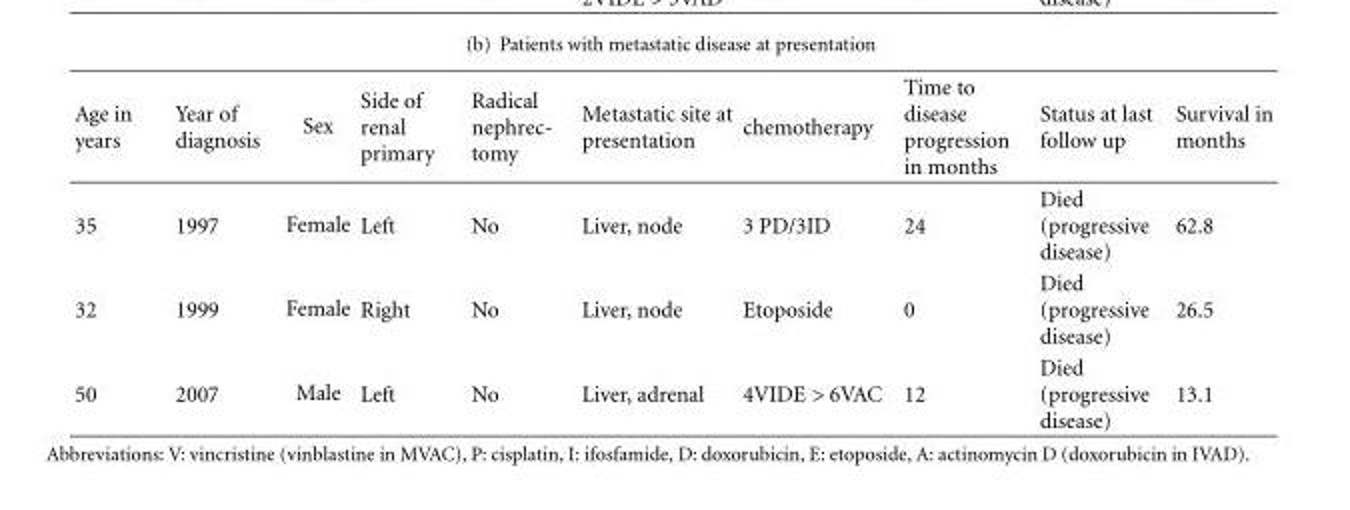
<table><thead><tr><td>Age in years</td><td>Year of diagnosis</td><td>Sex</td><td>Side of renal primary</td><td>Radical nephrec- tomy</td><td>Metastatic site at presentation</td><td>chemotherapy</td><td>Time to disease progression in months</td><td>Status at last follow up</td><td>Survival in months</td></tr></thead><tbody><tr><td>35</td><td>1997</td><td>Female</td><td>Left</td><td>No</td><td>Liver, node</td><td>3 PD/3ID</td><td>24</td><td>Died (progressive disease)</td><td>62.8</td></tr><tr><td>32</td><td>1999</td><td>Female</td><td>Right</td><td>No</td><td>Liver, node</td><td>Etoposide</td><td>0</td><td>Died (progressive disease)</td><td>26.5</td></tr><tr><td>50</td><td>2007</td><td>Male</td><td>Left</td><td>No</td><td>Liver, adrenal</td><td>4VIDE &gt; 6VAC</td><td>12</td><td>Died (progressive disease)</td><td>13.1</td></tr></tbody></table>